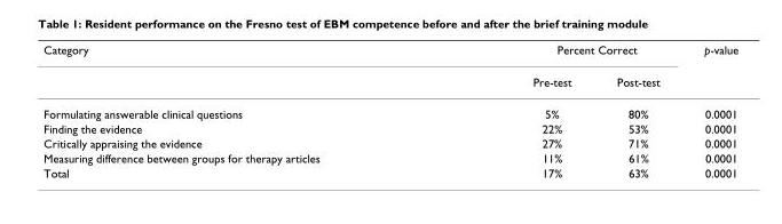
<table><thead><tr><td rowspan="2">Category</td><td colspan="2">Percent Correct</td><td rowspan="2">p-value</td></tr><tr><td>Pre-test</td><td>Post-test</td></tr></thead><tbody><tr><td>Formulating answerable clinical questions</td><td>5%</td><td>80%</td><td>0.0001</td></tr><tr><td>Finding the evidence</td><td>22%</td><td>53%</td><td>0.0001</td></tr><tr><td>Critically appraising the evidence</td><td>27%</td><td>71%</td><td>0.0001</td></tr><tr><td>Measuring difference between groups for therapy articles</td><td>11%</td><td>61%</td><td>0.0001</td></tr><tr><td>Total</td><td>17%</td><td>63%</td><td>0.0001</td></tr></tbody></table>